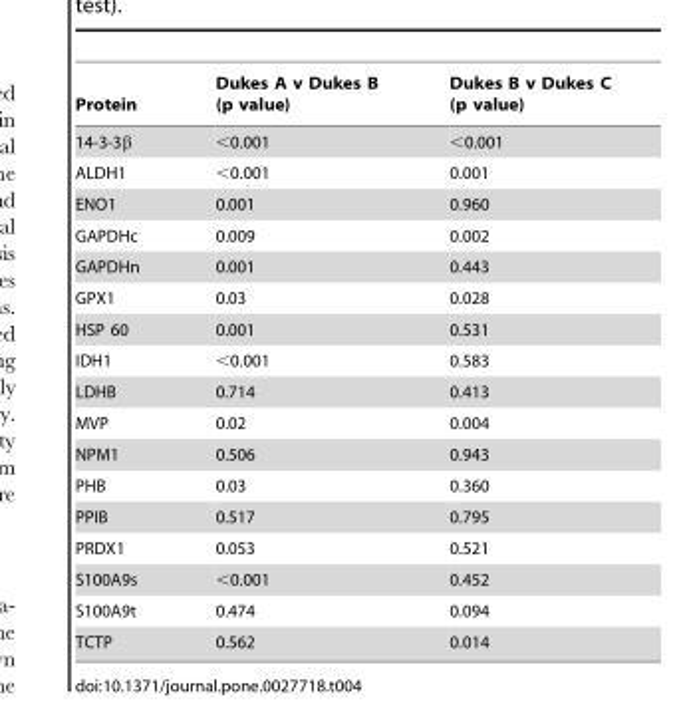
<table><thead><tr><td>Protein</td><td>Dukes A v Dukes B (p value)</td><td>Dukes B v Dukes C (p value)</td></tr></thead><tbody><tr><td>14-3-3β</td><td>&lt;0.001</td><td>&lt;0.001</td></tr><tr><td>ALDH1</td><td>&lt;0.001</td><td>0.001</td></tr><tr><td>ENO1</td><td>0.001</td><td>0.960</td></tr><tr><td>GAPDHc</td><td>0.009</td><td>0.002</td></tr><tr><td>GAPDHn</td><td>0.001</td><td>0.443</td></tr><tr><td>GPX1</td><td>0.03</td><td>0.028</td></tr><tr><td>HSP 60</td><td>0.001</td><td>0.531</td></tr><tr><td>IDH1</td><td>&lt;0.001</td><td>0.583</td></tr><tr><td>LDHB</td><td>0.714</td><td>0.413</td></tr><tr><td>MVP</td><td>0.02</td><td>0.004</td></tr><tr><td>NPM1</td><td>0.506</td><td>0.943</td></tr><tr><td>PHB</td><td>0.03</td><td>0.360</td></tr><tr><td>PPIB</td><td>0.517</td><td>0.795</td></tr><tr><td>PRDX1</td><td>0.053</td><td>0.521</td></tr><tr><td>S100A9s</td><td>&lt;0.001</td><td>0.452</td></tr><tr><td>S100A9t</td><td>0.474</td><td>0.094</td></tr><tr><td>TCTP</td><td>0.562</td><td>0.014</td></tr></tbody></table>